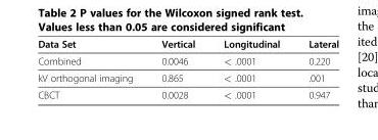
<table><thead><tr><td>Data Set</td><td>Vertical</td><td>Longitudinal</td><td>Lateral</td></tr></thead><tbody><tr><td>Combined</td><td>0.0046</td><td>&lt; .0001</td><td>0.220</td></tr><tr><td>kV orthogonal imaging</td><td>0.865</td><td>&lt; .0001</td><td>.001</td></tr><tr><td>CBCT</td><td>0.0028</td><td>&lt; .0001</td><td>0.947</td></tr></tbody></table>